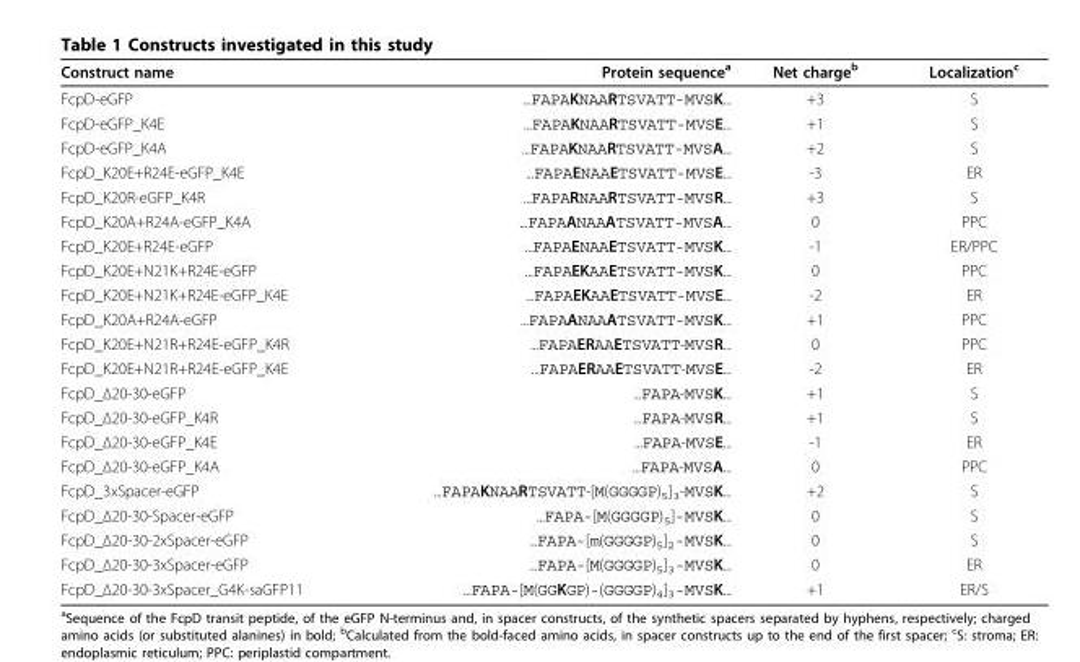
<table><thead><tr><td>Construct name</td><td>Protein sequence<sup>a</sup></td><td>Net charge<sup>b</sup></td><td>Localization<sup>c</sup></td></tr></thead><tbody><tr><td>FcpD-eGFP</td><td>...FAPAKNAARTSVATT-MVSK...</td><td>+3</td><td>S</td></tr><tr><td>FcpD-eGFP_K4E</td><td>...FAPAKNAARTSVATT-MVSE...</td><td>+1</td><td>S</td></tr><tr><td>FcpD-eGFP_K4A</td><td>...FAPAKNAARTSVATT-MVSA...</td><td>+2</td><td>S</td></tr><tr><td>FcpD_K20E+R24E-eGFP_K4E</td><td>...FAPAENAAETSVATT-MVSE...</td><td>-3</td><td>ER</td></tr><tr><td>FcpD_K20R-eGFP_K4R</td><td>...FAPARNAARTSVATT-MVSR...</td><td>+3</td><td>S</td></tr><tr><td>FcpD_K20A+R24A-eGFP_K4A</td><td>...FAPAANAAATSVATT-MVSA...</td><td>0</td><td>PPC</td></tr><tr><td>FcpD_K20E+R24E-eGFP</td><td>...FAPAENAAETSVATT-MVSK...</td><td>-1</td><td>ER/PPC</td></tr><tr><td>FcpD_K20E+N21K+R24E-eGFP</td><td>...FAPAEKAAETSVATT-MVSK...</td><td>0</td><td>PPC</td></tr><tr><td>FcpD_K20E+N21K+R24E-eGFP_K4E</td><td>...FAPAEKAAETSVATT-MVSE...</td><td>-2</td><td>ER</td></tr><tr><td>FcpD_K20A+R24A-eGFP</td><td>...FAPAANAAATSVATT-MVSK...</td><td>+1</td><td>PPC</td></tr><tr><td>FcpD_K20E+N21R+R24E-eGFP_K4R</td><td>...FAPAERAAETSVATT-MVSR...</td><td>0</td><td>PPC</td></tr><tr><td>FcpD_K20E+N21R+R24E-eGFP_K4E</td><td>...FAPAERAAETSVATT-MVSE...</td><td>-2</td><td>ER</td></tr><tr><td>FcpD_Δ20-30-eGFP</td><td>...FAPA-MVSK...</td><td>+1</td><td>S</td></tr><tr><td>FcpD_Δ20-30-eGFP_K4R</td><td>...FAPA-MVSR...</td><td>+1</td><td>S</td></tr><tr><td>FcpD_Δ20-30-eGFP_K4E</td><td>...FAPA-MVSE...</td><td>-1</td><td>ER</td></tr><tr><td>FcpD_Δ20-30-eGFP_K4A</td><td>...FAPA-MVSA...</td><td>0</td><td>PPC</td></tr><tr><td>FcpD_3xSpacer-eGFP</td><td>...FAPAKNAARTSVATT-[M(GGGGP)<sub>5</sub>]<sub>3</sub>-MVSK...</td><td>+2</td><td>S</td></tr><tr><td>FcpD_Δ20-30-Spacer-eGFP</td><td>...FAPA-[M(GGGGP)<sub>5</sub>]-MVSK...</td><td>0</td><td>S</td></tr><tr><td>FcpD_Δ20-30-2xSpacer-eGFP</td><td>...FAPA-[m(GGGGP)<sub>5</sub>]<sub>2</sub>-MVSK...</td><td>0</td><td>S</td></tr><tr><td>FcpD_Δ20-30-3xSpacer-eGFP</td><td>...FAPA-[M(GGGGP)<sub>5</sub>]<sub>3</sub>-MVSK...</td><td>0</td><td>ER</td></tr><tr><td>FcpD_Δ20-30-3xSpacer_G4K-saGFP11</td><td>...FAPA-[M(GGKGP)-(GGGGP)<sub>4</sub>]<sub>3</sub>-MVSK...</td><td>+1</td><td>ER/S</td></tr></tbody></table>